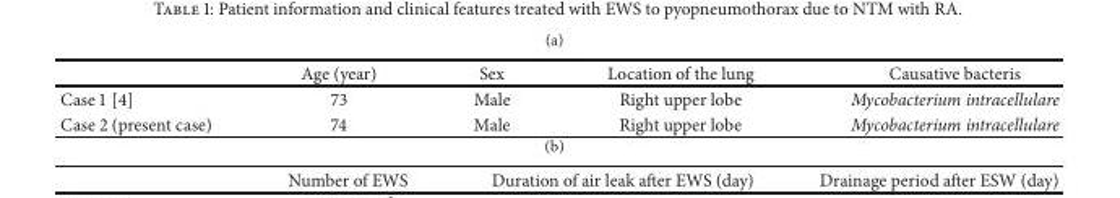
<table><thead><tr><td></td><td>Age (year)</td><td>Sex</td><td>Location of the lung</td><td>Causative bacteris</td></tr></thead><tbody><tr><td>Case 1 [4]</td><td>73</td><td>Male</td><td>Right upper lobe</td><td>Mycobacterium intracellulare</td></tr><tr><td>Case 2 (present case)</td><td>74</td><td>Male</td><td>Right upper lobe</td><td>Mycobacterium intracellulare</td></tr></tbody></table>